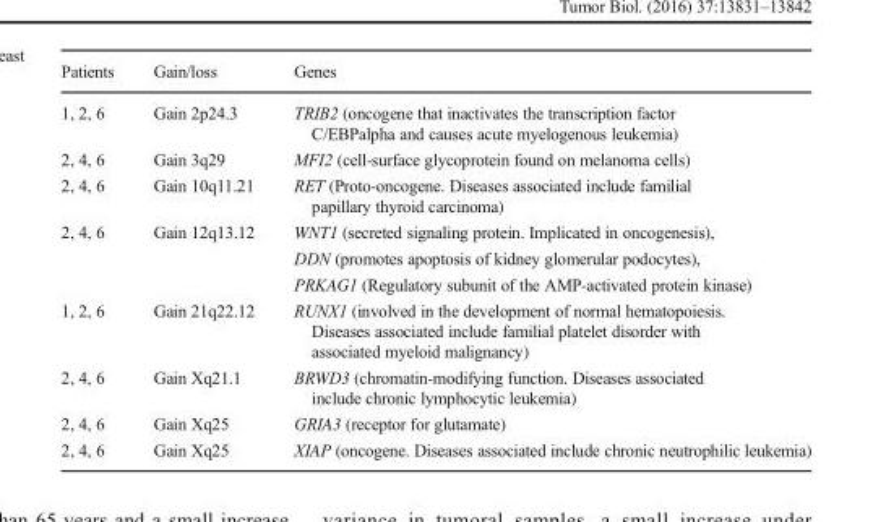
<table><thead><tr><td>Patients</td><td>Gain/loss</td><td>Genes</td></tr></thead><tbody><tr><td>1, 2, 6</td><td>Gain 2p24.3</td><td>TRIB2 (oncogene that inactivates the transcription factor C/EBPalpha and causes acute myelogenous leukemia)</td></tr><tr><td>2, 4, 6</td><td>Gain 3q29</td><td>MFI2 (cell-surface glycoprotein found on melanoma cells)</td></tr><tr><td>2, 4, 6</td><td>Gain 10q11.21</td><td>RET (Proto-oncogene. Diseases associated include familial papillary thyroid carcinoma)</td></tr><tr><td>2, 4, 6</td><td>Gain 12q13.12</td><td>WNT1 (secreted signaling protein. Implicated in oncogenesis), DDN (promotes apoptosis of kidney glomerular podocytes), PRKAG1 (Regulatory subunit of the AMP-activated protein kinase)</td></tr><tr><td>1, 2, 6</td><td>Gain 21q22.12</td><td>RUNX1 (involved in the development of normal hematopoiesis. Diseases associated include familial platelet disorder with associated myeloid malignancy)</td></tr><tr><td>2, 4, 6</td><td>Gain Xq21.1</td><td>BRWD3 (chromatin-modifying function. Diseases associated include chronic lymphocytic leukemia)</td></tr><tr><td>2, 4, 6</td><td>Gain Xq25</td><td>GRIA3 (receptor for glutamate)</td></tr><tr><td>2, 4, 6</td><td>Gain Xq25</td><td>XIAP (oncogene. Diseases associated include chronic neutrophilic leukemia)</td></tr></tbody></table>